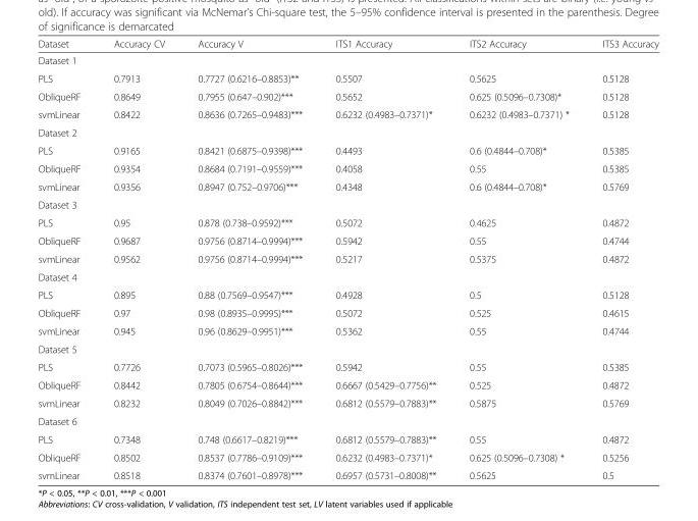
<table><thead><tr><td>Dataset</td><td>Accuracy CV</td><td>Accuracy V</td><td>ITS1 Accuracy</td><td>ITS2 Accuracy</td><td>ITS3 Accuracy</td></tr></thead><tbody><tr><td colspan="6">Dataset 1</td></tr><tr><td>PLS</td><td>0.7913</td><td>0.7727 (0.6216–0.8853)**</td><td>0.5507</td><td>0.5625</td><td>0.5128</td></tr><tr><td>ObliqueRF</td><td>0.8649</td><td>0.7955 (0.647–0.902)***</td><td>0.5652</td><td>0.625 (0.5096–0.7308)*</td><td>0.5128</td></tr><tr><td>svmLinear</td><td>0.8422</td><td>0.8636 (0.7265–0.9483)***</td><td>0.6232 (0.4983–0.7371)*</td><td>0.6232 (0.4983–0.7371) *</td><td>0.5128</td></tr><tr><td colspan="6">Dataset 2</td></tr><tr><td>PLS</td><td>0.9165</td><td>0.8421 (0.6875–0.9398)***</td><td>0.4493</td><td>0.6 (0.4844–0.708)*</td><td>0.5385</td></tr><tr><td>ObliqueRF</td><td>0.9354</td><td>0.8684 (0.7191–0.9559)***</td><td>0.4058</td><td>0.55</td><td>0.5385</td></tr><tr><td>svmLinear</td><td>0.9356</td><td>0.8947 (0.752–0.9706)***</td><td>0.4348</td><td>0.6 (0.4844–0.708)*</td><td>0.5769</td></tr><tr><td colspan="6">Dataset 3</td></tr><tr><td>PLS</td><td>0.95</td><td>0.878 (0.738–0.9592)***</td><td>0.5072</td><td>0.4625</td><td>0.4872</td></tr><tr><td>ObliqueRF</td><td>0.9687</td><td>0.9756 (0.8714–0.9994)***</td><td>0.5942</td><td>0.55</td><td>0.4744</td></tr><tr><td>svmLinear</td><td>0.9562</td><td>0.9756 (0.8714–0.9994)***</td><td>0.5217</td><td>0.5375</td><td>0.4872</td></tr><tr><td colspan="6">Dataset 4</td></tr><tr><td>PLS</td><td>0.895</td><td>0.88 (0.7569–0.9547)***</td><td>0.4928</td><td>0.5</td><td>0.5128</td></tr><tr><td>ObliqueRF</td><td>0.97</td><td>0.98 (0.8935–0.9995)***</td><td>0.5072</td><td>0.525</td><td>0.4615</td></tr><tr><td>svmLinear</td><td>0.945</td><td>0.96 (0.8629–0.9951)***</td><td>0.5362</td><td>0.55</td><td>0.4744</td></tr><tr><td colspan="6">Dataset 5</td></tr><tr><td>PLS</td><td>0.7726</td><td>0.7073 (0.5965–0.8026)***</td><td>0.5942</td><td>0.55</td><td>0.5385</td></tr><tr><td>ObliqueRF</td><td>0.8442</td><td>0.7805 (0.6754–0.8644)***</td><td>0.6667 (0.5429–0.7756)**</td><td>0.525</td><td>0.4872</td></tr><tr><td>svmLinear</td><td>0.8232</td><td>0.8049 (0.7026–0.8842)***</td><td>0.6812 (0.5579–0.7883)**</td><td>0.5875</td><td>0.5769</td></tr><tr><td colspan="6">Dataset 6</td></tr><tr><td>PLS</td><td>0.7348</td><td>0.748 (0.6617–0.8219)***</td><td>0.6812 (0.5579–0.7883)**</td><td>0.55</td><td>0.4872</td></tr><tr><td>ObliqueRF</td><td>0.8502</td><td>0.8537 (0.7786–0.9109)***</td><td>0.6232 (0.4983–0.7371)*</td><td>0.625 (0.5096–0.7308) *</td><td>0.5256</td></tr><tr><td>svmLinear</td><td>0.8518</td><td>0.8374 (0.7601–0.8978)***</td><td>0.6957 (0.5731–0.8008)**</td><td>0.5625</td><td>0.5</td></tr></tbody></table>